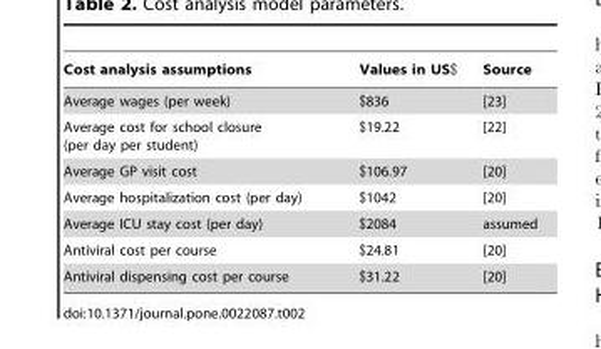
<table><thead><tr><td>Cost analysis assumptions</td><td>Values in US$</td><td>Source</td></tr></thead><tbody><tr><td>Average wages (per week)</td><td>$836</td><td>[23]</td></tr><tr><td>Average cost for school closure (per day per student)</td><td>$19.22</td><td>[22]</td></tr><tr><td>Average GP visit cost</td><td>$106.97</td><td>[20]</td></tr><tr><td>Average hospitalization cost (per day)</td><td>$1042</td><td>[20]</td></tr><tr><td>Average ICU stay cost (per day)</td><td>$2084</td><td>assumed</td></tr><tr><td>Antiviral cost per course</td><td>$24.81</td><td>[20]</td></tr><tr><td>Antiviral dispensing cost per course</td><td>$31.22</td><td>[20]</td></tr></tbody></table>